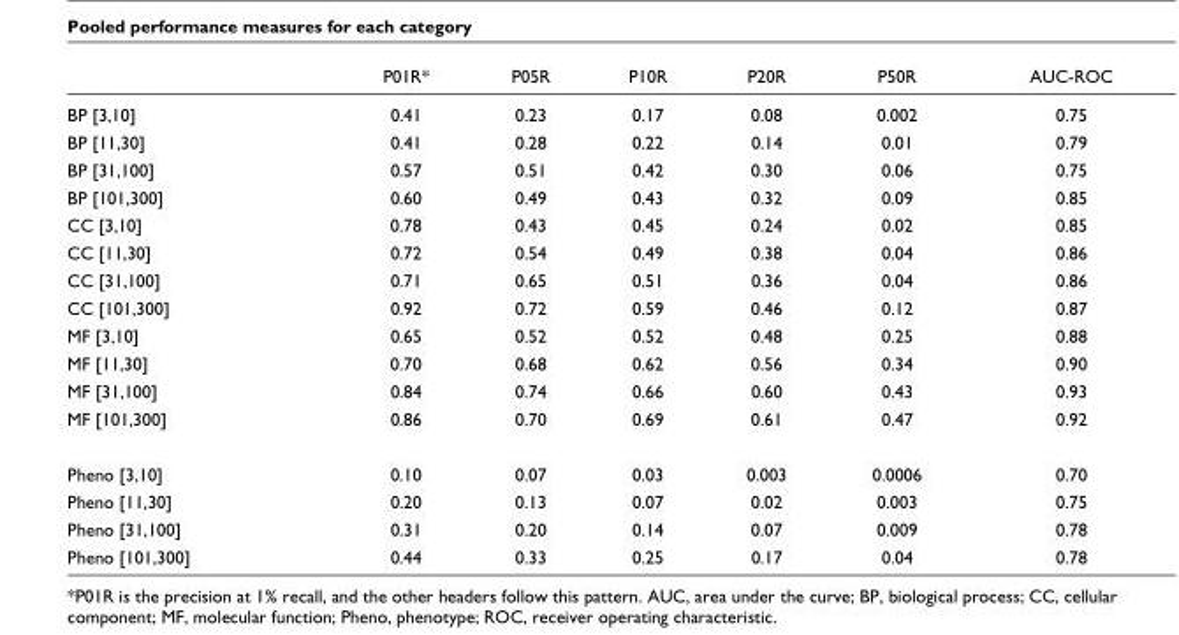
<table><thead><tr><td></td><td>P01R*</td><td>P05R</td><td>P10R</td><td>P20R</td><td>P50R</td><td>AUC-ROC</td></tr></thead><tbody><tr><td>BP [3,10]</td><td>0.41</td><td>0.23</td><td>0.17</td><td>0.08</td><td>0.002</td><td>0.75</td></tr><tr><td>BP [11,30]</td><td>0.41</td><td>0.28</td><td>0.22</td><td>0.14</td><td>0.01</td><td>0.79</td></tr><tr><td>BP [31,100]</td><td>0.57</td><td>0.51</td><td>0.42</td><td>0.30</td><td>0.06</td><td>0.75</td></tr><tr><td>BP [101,300]</td><td>0.60</td><td>0.49</td><td>0.43</td><td>0.32</td><td>0.09</td><td>0.85</td></tr><tr><td>CC [3,10]</td><td>0.78</td><td>0.43</td><td>0.45</td><td>0.24</td><td>0.02</td><td>0.85</td></tr><tr><td>CC [11,30]</td><td>0.72</td><td>0.54</td><td>0.49</td><td>0.38</td><td>0.04</td><td>0.86</td></tr><tr><td>CC [31,100]</td><td>0.71</td><td>0.65</td><td>0.51</td><td>0.36</td><td>0.04</td><td>0.86</td></tr><tr><td>CC [101,300]</td><td>0.92</td><td>0.72</td><td>0.59</td><td>0.46</td><td>0.12</td><td>0.87</td></tr><tr><td>MF [3,10]</td><td>0.65</td><td>0.52</td><td>0.52</td><td>0.48</td><td>0.25</td><td>0.88</td></tr><tr><td>MF [11,30]</td><td>0.70</td><td>0.68</td><td>0.62</td><td>0.56</td><td>0.34</td><td>0.90</td></tr><tr><td>MF [31,100]</td><td>0.84</td><td>0.74</td><td>0.66</td><td>0.60</td><td>0.43</td><td>0.93</td></tr><tr><td>MF [101,300]</td><td>0.86</td><td>0.70</td><td>0.69</td><td>0.61</td><td>0.47</td><td>0.92</td></tr><tr><td>Pheno [3,10]</td><td>0.10</td><td>0.07</td><td>0.03</td><td>0.003</td><td>0.0006</td><td>0.70</td></tr><tr><td>Pheno [11,30]</td><td>0.20</td><td>0.13</td><td>0.07</td><td>0.02</td><td>0.003</td><td>0.75</td></tr><tr><td>Pheno [31,100]</td><td>0.31</td><td>0.20</td><td>0.14</td><td>0.07</td><td>0.009</td><td>0.78</td></tr><tr><td>Pheno [101,300]</td><td>0.44</td><td>0.33</td><td>0.25</td><td>0.17</td><td>0.04</td><td>0.78</td></tr></tbody></table>